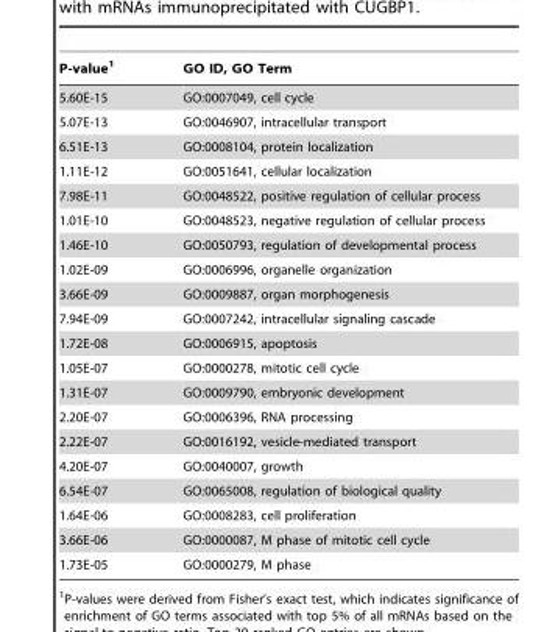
<table><thead><tr><td>P-value<sup>1</sup></td><td>GO ID, GO Term</td></tr></thead><tbody><tr><td>5.60E-15</td><td>GO:0007049, cell cycle</td></tr><tr><td>5.07E-13</td><td>GO:0046907, intracellular transport</td></tr><tr><td>6.51E-13</td><td>GO:0008104, protein localization</td></tr><tr><td>1.11E-12</td><td>GO:0051641, cellular localization</td></tr><tr><td>7.98E-11</td><td>GO:0048522, positive regulation of cellular process</td></tr><tr><td>1.01E-10</td><td>GO:0048523, negative regulation of cellular process</td></tr><tr><td>1.46E-10</td><td>GO:0050793, regulation of developmental process</td></tr><tr><td>1.02E-09</td><td>GO:0006996, organelle organization</td></tr><tr><td>3.66E-09</td><td>GO:0009887, organ morphogenesis</td></tr><tr><td>7.94E-09</td><td>GO:0007242, intracellular signaling cascade</td></tr><tr><td>1.72E-08</td><td>GO:0006915, apoptosis</td></tr><tr><td>1.05E-07</td><td>GO:0000278, mitotic cell cycle</td></tr><tr><td>1.31E-07</td><td>GO:0009790, embryonic development</td></tr><tr><td>2.20E-07</td><td>GO:0006396, RNA processing</td></tr><tr><td>2.22E-07</td><td>GO:0016192, vesicle-mediated transport</td></tr><tr><td>4.20E-07</td><td>GO:0040007, growth</td></tr><tr><td>6.54E-07</td><td>GO:0065008, regulation of biological quality</td></tr><tr><td>1.64E-06</td><td>GO:0008283, cell proliferation</td></tr><tr><td>3.66E-06</td><td>GO:0000087, M phase of mitotic cell cycle</td></tr><tr><td>1.73E-05</td><td>GO:0000279, M phase</td></tr></tbody></table>